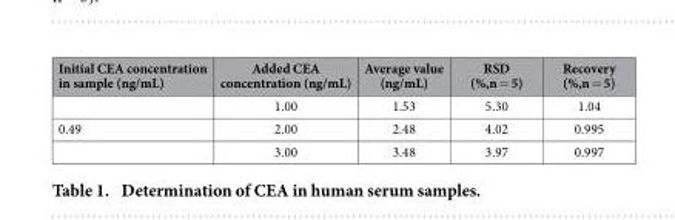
<table><thead><tr><td>Initial CEA concentration in sample (ng/mL)</td><td>Added CEA concentration (ng/mL)</td><td>Average value (ng/mL)</td><td>RSD (%,n = 5)</td><td>Recovery (%,n = 5)</td></tr></thead><tbody><tr><td></td><td>1.00</td><td>1.53</td><td>5.30</td><td>1.04</td></tr><tr><td rowspan="2">0.49</td><td>2.00</td><td>2.48</td><td>4.02</td><td>0.995</td></tr><tr><td>3.00</td><td>3.48</td><td>3.97</td><td>0.997</td></tr></tbody></table>